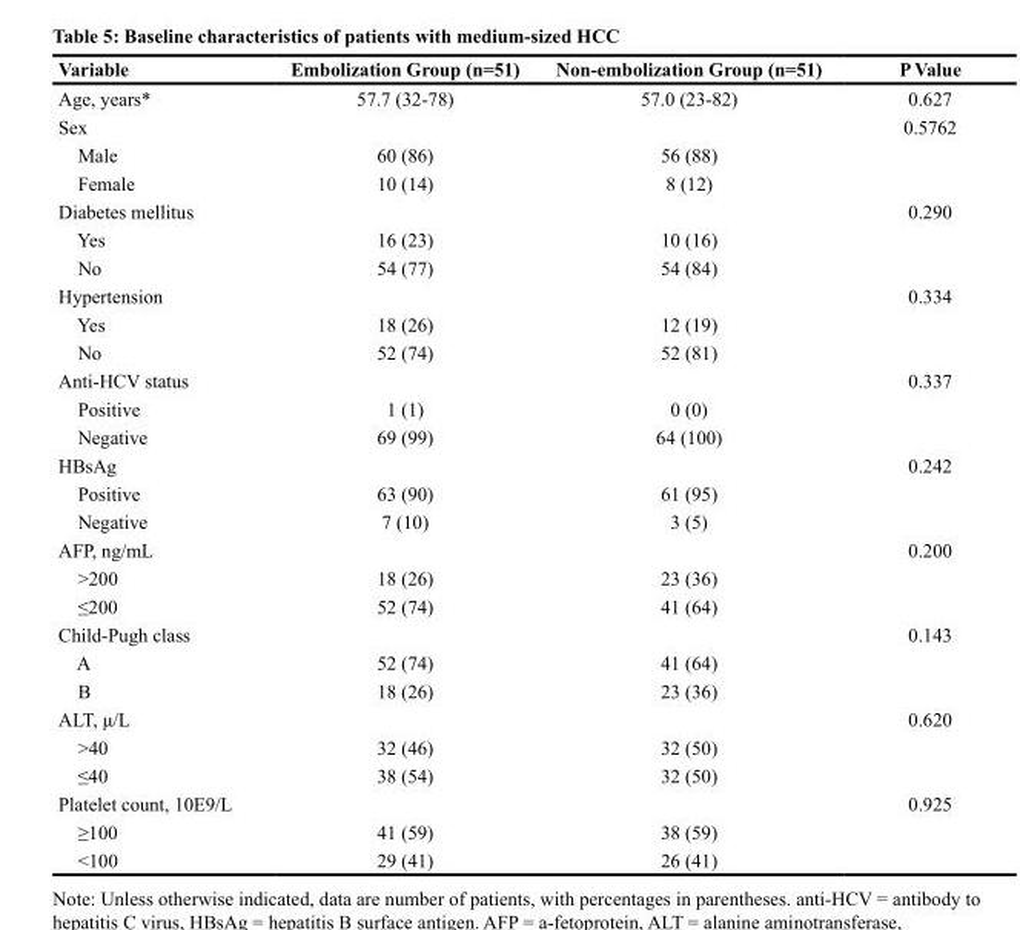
<table><thead><tr><td>Variable</td><td>Embolization Group (n=51)</td><td>Non-embolization Group (n=51)</td><td>P Value</td></tr></thead><tbody><tr><td>Age, years*</td><td>57.7 (32-78)</td><td>57.0 (23-82)</td><td>0.627</td></tr><tr><td>Sex</td><td></td><td></td><td>0.5762</td></tr><tr><td>Male</td><td>60 (86)</td><td>56 (88)</td><td></td></tr><tr><td>Female</td><td>10 (14)</td><td>8 (12)</td><td></td></tr><tr><td>Diabetes mellitus</td><td></td><td></td><td>0.290</td></tr><tr><td>Yes</td><td>16 (23)</td><td>10 (16)</td><td></td></tr><tr><td>No</td><td>54 (77)</td><td>54 (84)</td><td></td></tr><tr><td>Hypertension</td><td></td><td></td><td>0.334</td></tr><tr><td>Yes</td><td>18 (26)</td><td>12 (19)</td><td></td></tr><tr><td>No</td><td>52 (74)</td><td>52 (81)</td><td></td></tr><tr><td>Anti-HCV status</td><td></td><td></td><td>0.337</td></tr><tr><td>Positive</td><td>1 (1)</td><td>0 (0)</td><td></td></tr><tr><td>Negative</td><td>69 (99)</td><td>64 (100)</td><td></td></tr><tr><td>HBsAg</td><td></td><td></td><td>0.242</td></tr><tr><td>Positive</td><td>63 (90)</td><td>61 (95)</td><td></td></tr><tr><td>Negative</td><td>7 (10)</td><td>3 (5)</td><td></td></tr><tr><td>AFP, ng/mL</td><td></td><td></td><td>0.200</td></tr><tr><td>&gt;200</td><td>18 (26)</td><td>23 (36)</td><td></td></tr><tr><td>≤200</td><td>52 (74)</td><td>41 (64)</td><td></td></tr><tr><td>Child-Pugh class</td><td></td><td></td><td>0.143</td></tr><tr><td>A</td><td>52 (74)</td><td>41 (64)</td><td></td></tr><tr><td>B</td><td>18 (26)</td><td>23 (36)</td><td></td></tr><tr><td>ALT, μ/L</td><td></td><td></td><td>0.620</td></tr><tr><td>&gt;40</td><td>32 (46)</td><td>32 (50)</td><td></td></tr><tr><td>≤40</td><td>38 (54)</td><td>32 (50)</td><td></td></tr><tr><td>Platelet count, 10E9/L</td><td></td><td></td><td>0.925</td></tr><tr><td>≥100</td><td>41 (59)</td><td>38 (59)</td><td></td></tr><tr><td>&lt;100</td><td>29 (41)</td><td>26 (41)</td><td></td></tr></tbody></table>